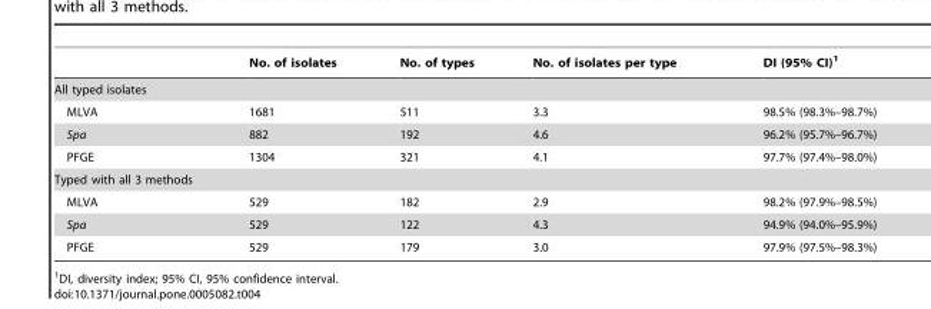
<table><thead><tr><td></td><td>No. of isolates</td><td>No. of types</td><td>No. of isolates per type</td><td>DI (95% CI)<sup>1</sup></td></tr></thead><tbody><tr><td colspan="5">All typed isolates</td></tr><tr><td>MLVA</td><td>1681</td><td>511</td><td>3.3</td><td>98.5% (98.3%–98.7%)</td></tr><tr><td>Spa</td><td>882</td><td>192</td><td>4.6</td><td>96.2% (95.7%–96.7%)</td></tr><tr><td>PFGE</td><td>1304</td><td>321</td><td>4.1</td><td>97.7% (97.4%–98.0%)</td></tr><tr><td colspan="5">Typed with all 3 methods</td></tr><tr><td>MLVA</td><td>529</td><td>182</td><td>2.9</td><td>98.2% (97.9%–98.5%)</td></tr><tr><td>Spa</td><td>529</td><td>122</td><td>4.3</td><td>94.9% (94.0%–95.9%)</td></tr><tr><td>PFGE</td><td>529</td><td>179</td><td>3.0</td><td>97.9% (97.5%–98.3%)</td></tr></tbody></table>